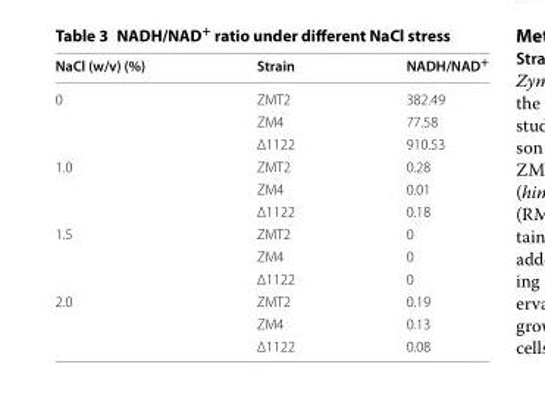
<table><thead><tr><td>NaCl (w/v) (%)</td><td>Strain</td><td>NADH/NAD<sup>+</sup></td></tr></thead><tbody><tr><td rowspan="3">0</td><td>ZMT2</td><td>382.49</td></tr><tr><td>ZM4</td><td>77.58</td></tr><tr><td>Δ1122</td><td>910.53</td></tr><tr><td rowspan="3">1.0</td><td>ZMT2</td><td>0.28</td></tr><tr><td>ZM4</td><td>0.01</td></tr><tr><td>Δ1122</td><td>0.18</td></tr><tr><td rowspan="3">1.5</td><td>ZMT2</td><td>0</td></tr><tr><td>ZM4</td><td>0</td></tr><tr><td>Δ1122</td><td>0</td></tr><tr><td rowspan="3">2.0</td><td>ZMT2</td><td>0.19</td></tr><tr><td>ZM4</td><td>0.13</td></tr><tr><td>Δ1122</td><td>0.08</td></tr></tbody></table>